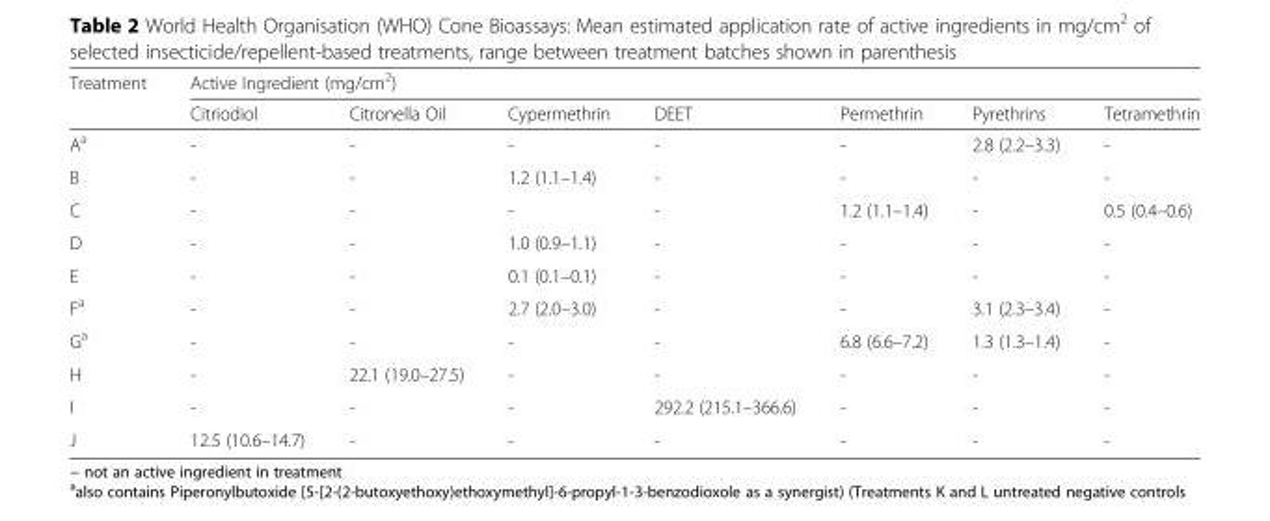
<table><thead><tr><td rowspan="2">Treatment</td><td colspan="7">Active Ingredient (mg/cm<sup>2</sup>)</td></tr><tr><td>Citriodiol</td><td>Citronella Oil</td><td>Cypermethrin</td><td>DEET</td><td>Permethrin</td><td>Pyrethrins</td><td>Tetramethrin</td></tr></thead><tbody><tr><td>A<sup>a</sup></td><td>-</td><td>-</td><td>-</td><td>-</td><td>-</td><td>2.8 (2.2–3.3)</td><td>-</td></tr><tr><td>B</td><td>-</td><td>-</td><td>1.2 (1.1–1.4)</td><td>-</td><td>-</td><td>-</td><td>-</td></tr><tr><td>C</td><td>-</td><td>-</td><td>-</td><td>-</td><td>1.2 (1.1–1.4)</td><td>-</td><td>0.5 (0.4–0.6)</td></tr><tr><td>D</td><td>-</td><td>-</td><td>1.0 (0.9–1.1)</td><td>-</td><td>-</td><td>-</td><td>-</td></tr><tr><td>E</td><td>-</td><td>-</td><td>0.1 (0.1–0.1)</td><td>-</td><td>-</td><td>-</td><td>-</td></tr><tr><td>F<sup>a</sup></td><td>-</td><td>-</td><td>2.7 (2.0–3.0)</td><td>-</td><td>-</td><td>3.1 (2.3–3.4)</td><td>-</td></tr><tr><td>G<sup>a</sup></td><td>-</td><td>-</td><td>-</td><td>-</td><td>6.8 (6.6–7.2)</td><td>1.3 (1.3–1.4)</td><td>-</td></tr><tr><td>H</td><td>-</td><td>22.1 (19.0–27.5)</td><td>-</td><td>-</td><td>-</td><td>-</td><td>-</td></tr><tr><td>I</td><td>-</td><td>-</td><td>-</td><td>292.2 (215.1–366.6)</td><td>-</td><td>-</td><td>-</td></tr><tr><td>J</td><td>12.5 (10.6–14.7)</td><td>-</td><td>-</td><td>-</td><td>-</td><td>-</td><td>-</td></tr></tbody></table>